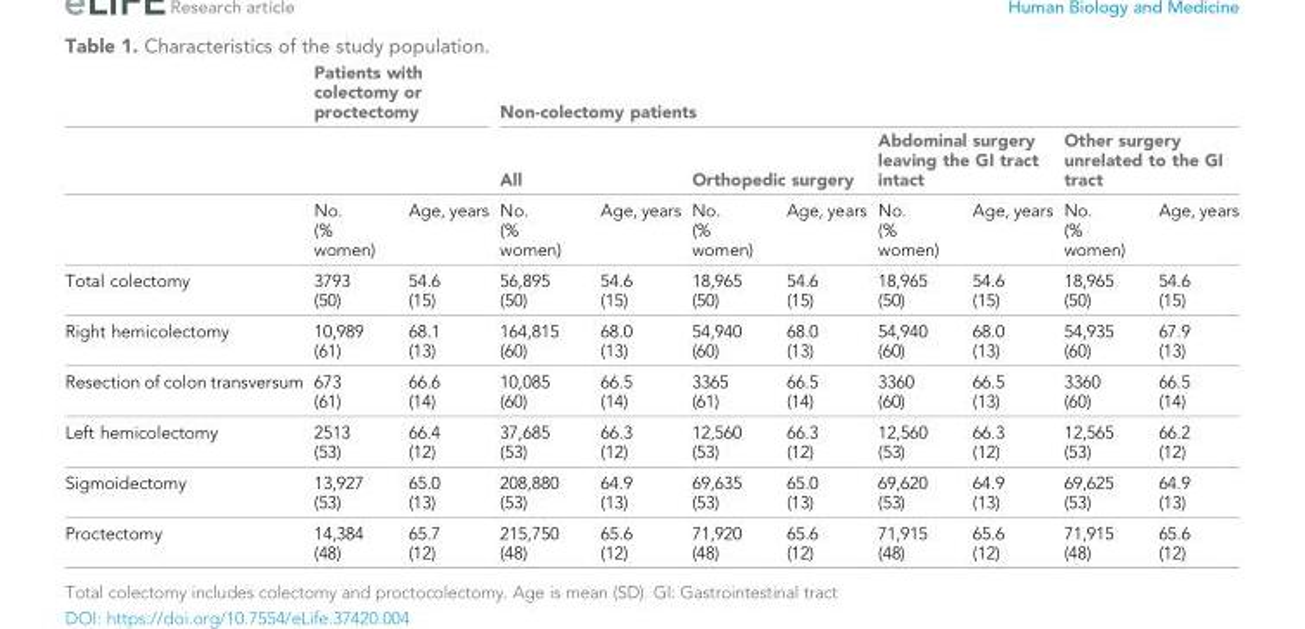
<table><thead><tr><td rowspan="3"></td><td colspan="2">Patients with colectomy or proctectomy</td><td colspan="8">Non-colectomy patients</td></tr><tr><td rowspan="2">No. (% women)</td><td rowspan="2">Age, years</td><td colspan="2">All</td><td colspan="2">Orthopedic surgery</td><td colspan="2">Abdominal surgery leaving the GI tract intact</td><td colspan="2">Other surgery unrelated to the GI tract</td></tr><tr><td>No. (% women)</td><td>Age, years</td><td>No. (% women)</td><td>Age, years</td><td>No. (% women)</td><td>Age, years</td><td>No. (% women)</td><td>Age, years</td></tr></thead><tbody><tr><td>Total colectomy</td><td>3793 (50)</td><td>54.6 (15)</td><td>56,895 (50)</td><td>54.6 (15)</td><td>18,965 (50)</td><td>54.6 (15)</td><td>18,965 (50)</td><td>54.6 (15)</td><td>18,965 (50)</td><td>54.6 (15)</td></tr><tr><td>Right hemicolectomy</td><td>10,989 (61)</td><td>68.1 (13)</td><td>164,815 (60)</td><td>68.0 (13)</td><td>54,940 (60)</td><td>68.0 (13)</td><td>54,940 (60)</td><td>68.0 (13)</td><td>54,935 (60)</td><td>67.9 (13)</td></tr><tr><td>Resection of colon transversum</td><td>673 (61)</td><td>66.6 (14)</td><td>10,085 (60)</td><td>66.5 (14)</td><td>3365 (61)</td><td>66.5 (14)</td><td>3360 (60)</td><td>66.5 (13)</td><td>3360 (60)</td><td>66.5 (14)</td></tr><tr><td>Left hemicolectomy</td><td>2513 (53)</td><td>66.4 (12)</td><td>37,685 (53)</td><td>66.3 (12)</td><td>12,560 (53)</td><td>66.3 (12)</td><td>12,560 (53)</td><td>66.3 (12)</td><td>12,565 (53)</td><td>66.2 (12)</td></tr><tr><td>Sigmoidectomy</td><td>13,927 (53)</td><td>65.0 (13)</td><td>208,880 (53)</td><td>64.9 (13)</td><td>69,635 (53)</td><td>65.0 (13)</td><td>69,620 (53)</td><td>64.9 (13)</td><td>69,625 (53)</td><td>64.9 (13)</td></tr><tr><td>Proctectomy</td><td>14,384 (48)</td><td>65.7 (12)</td><td>215,750 (48)</td><td>65.6 (12)</td><td>71,920 (48)</td><td>65.6 (12)</td><td>71,915 (48)</td><td>65.6 (12)</td><td>71,915 (48)</td><td>65.6 (12)</td></tr></tbody></table>